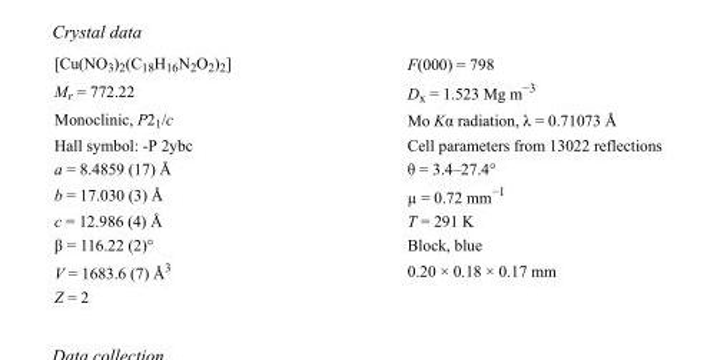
<table><tbody><tr><td>[Cu(NO<sub>3</sub>)<sub>2</sub>(C<sub>18</sub>H<sub>16</sub>N<sub>2</sub>O<sub>2</sub>)<sub>2</sub>]</td><td>F(000) = 798</td></tr><tr><td>M<sub>r</sub> = 772.22</td><td>D<sub>x</sub> = 1.523 Mg m<sup>−3</sup></td></tr><tr><td>Monoclinic, P2<sub>1</sub>/c</td><td>Mo Kα radiation, λ = 0.71073 Å</td></tr><tr><td>Hall symbol: -P 2ybc</td><td>Cell parameters from 13022 reflections</td></tr><tr><td>a = 8.4859 (17) Å</td><td>θ = 3.4–27.4°</td></tr><tr><td>b = 17.030 (3) Å</td><td>µ = 0.72 mm<sup>−1</sup></td></tr><tr><td>c = 12.986 (4) Å</td><td>T = 291 K</td></tr><tr><td>β = 116.22 (2)°</td><td>Block, blue</td></tr><tr><td>V = 1683.6 (7) Å<sup>3</sup></td><td>0.20 × 0.18 × 0.17 mm</td></tr><tr><td>Z = 2</td><td></td></tr></tbody></table>